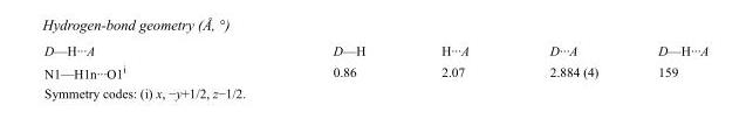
<table><tbody><tr><td>D—H···A</td><td>D—H</td><td>H···A</td><td>D···A</td><td>D—H···A</td></tr><tr><td>N1—H1n···O1<sup>i</sup></td><td>0.86</td><td>2.07</td><td>2.884 (4)</td><td>159</td></tr></tbody></table>